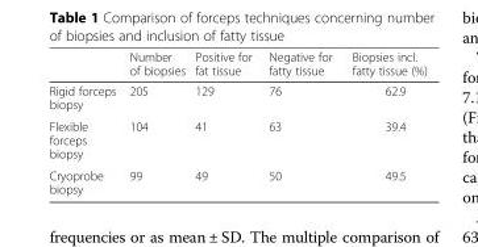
<table><thead><tr><td></td><td>Number of biopsies</td><td>Positive for fat tissue</td><td>Negative for fatty tissue</td><td>Biopsies incl. fatty tissue (%)</td></tr></thead><tbody><tr><td>Rigid forceps biopsy</td><td>205</td><td>129</td><td>76</td><td>62.9</td></tr><tr><td>Flexible forceps biopsy</td><td>104</td><td>41</td><td>63</td><td>39.4</td></tr><tr><td>Cryoprobe biopsy</td><td>99</td><td>49</td><td>50</td><td>49.5</td></tr></tbody></table>